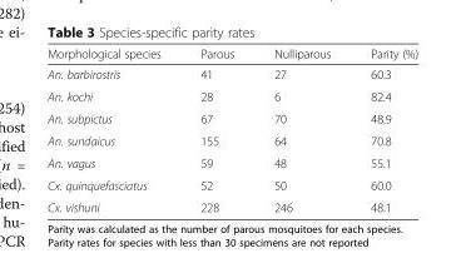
<table><thead><tr><td>Morphological species</td><td>Parous</td><td>Nulliparous</td><td>Parity (%)</td></tr></thead><tbody><tr><td>An. barbirostris</td><td>41</td><td>27</td><td>60.3</td></tr><tr><td>An. kochi</td><td>28</td><td>6</td><td>82.4</td></tr><tr><td>An. subpictus</td><td>67</td><td>70</td><td>48.9</td></tr><tr><td>An. sundaicus</td><td>155</td><td>64</td><td>70.8</td></tr><tr><td>An. vagus</td><td>59</td><td>48</td><td>55.1</td></tr><tr><td>Cx. quinquefasciatus</td><td>52</td><td>50</td><td>60.0</td></tr><tr><td>Cx. vishuni</td><td>228</td><td>246</td><td>48.1</td></tr></tbody></table>